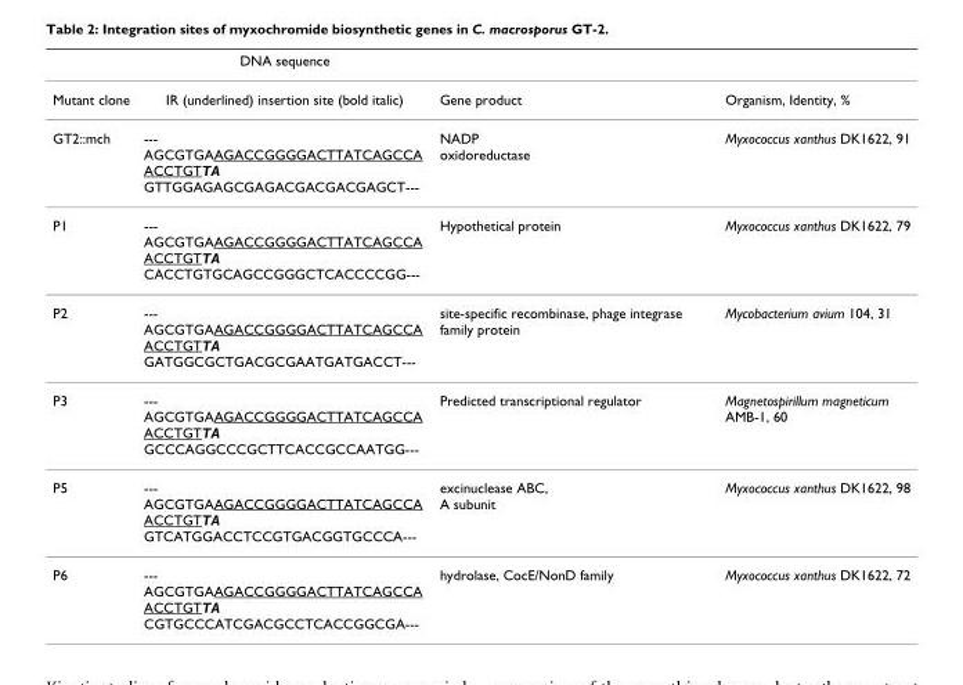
<table><thead><tr><td></td><td>DNA sequence</td><td></td><td></td></tr></thead><tbody><tr><td>Mutant clone</td><td>IR (underlined) insertion site (bold italic)</td><td>Gene product</td><td>Organism, Identity, %</td></tr><tr><td>GT2::mch</td><td>--- AGCGTGAAGACCGGGGACTTATCAGCCA ACCTGTTA GTTGGAGAGCGAGACGACGACGAGCT---</td><td>NADP oxidoreductase</td><td>Myxococcus xanthus DK1622, 91</td></tr><tr><td>P1</td><td>--- AGCGTGAAGACCGGGGACTTATCAGCCA ACCTGTTA CACCTGTGCAGCCGGGCTCACCCCGG---</td><td>Hypothetical protein</td><td>Myxococcus xanthus DK1622, 79</td></tr><tr><td>P2</td><td>--- AGCGTGAAGACCGGGGACTTATCAGCCA ACCTGTTA GATGGCGCTGACGCGAATGATGACCT---</td><td>site-specific recombinase, phage integrase family protein</td><td>Mycobacterium avium 104, 31</td></tr><tr><td>P3</td><td>--- AGCGTGAAGACCGGGGACTTATCAGCCA ACCTGTTA GCCCAGGCCCGCTTCACCGCCAATGG---</td><td>Predicted transcriptional regulator</td><td>Magnetospirillum magneticum AMB-1, 60</td></tr><tr><td>P5</td><td>--- AGCGTGAAGACCGGGGACTTATCAGCCA ACCTGTTA GTCATGGACCTCCGTGACGGTGCCCA---</td><td>excinuclease ABC, A subunit</td><td>Myxococcus xanthus DK1622, 98</td></tr><tr><td>P6</td><td>--- AGCGTGAAGACCGGGGACTTATCAGCCA ACCTGTTA CGTGCCCATCGACGCCTCACCGGCGA---</td><td>hydrolase, CocE/NonD family</td><td>Myxococcus xanthus DK1622, 72</td></tr></tbody></table>